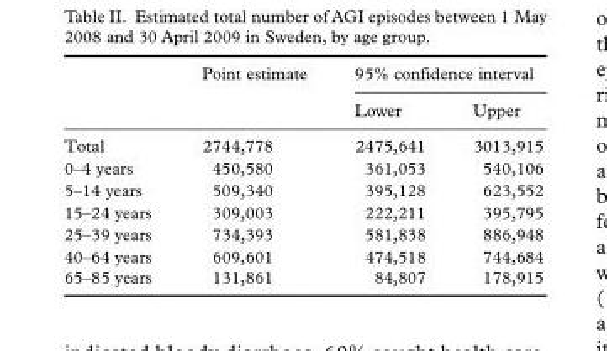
<table><thead><tr><td rowspan="2"></td><td rowspan="2">Point estimate</td><td colspan="2">95% confidence interval</td></tr><tr><td>lower</td><td>upper</td></tr></thead><tbody><tr><td>total</td><td>2744,778</td><td>2475,641</td><td>3013,915</td></tr><tr><td>0–4 years</td><td>450,580</td><td>361,053</td><td>540,106</td></tr><tr><td>5–14 years</td><td>509,340</td><td>395,128</td><td>623,552</td></tr><tr><td>15–24 years</td><td>309,003</td><td>222,211</td><td>395,795</td></tr><tr><td>25–39 years</td><td>734,393</td><td>581,838</td><td>886,948</td></tr><tr><td>40–64 years</td><td>609,601</td><td>474,518</td><td>744,684</td></tr><tr><td>65–85 years</td><td>131,861</td><td>84,807</td><td>178,915</td></tr></tbody></table>